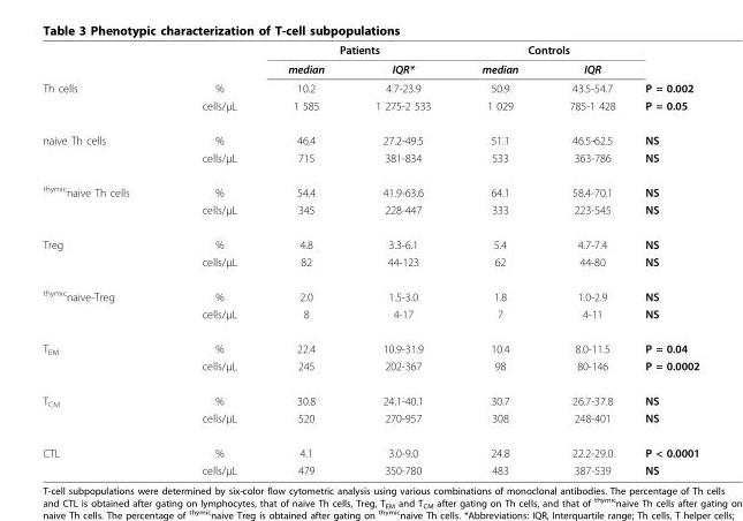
<table><thead><tr><td rowspan="2"></td><td rowspan="2"></td><td colspan="2">Patients</td><td colspan="2">Controls</td><td rowspan="2"></td></tr><tr><td>median</td><td>IQR*</td><td>median</td><td>IQR</td></tr></thead><tbody><tr><td rowspan="2">Th cells</td><td>%</td><td>10.2</td><td>4.7-23.9</td><td>50.9</td><td>43.5-54.7</td><td>P = 0.002</td></tr><tr><td>cells/μL</td><td>1 585</td><td>1 275-2 533</td><td>1 029</td><td>785-1 428</td><td>P = 0.05</td></tr><tr><td rowspan="2">naive Th cells</td><td>%</td><td>46.4</td><td>27.2-49.5</td><td>51.1</td><td>46.5-62.5</td><td>NS</td></tr><tr><td>cells/μL</td><td>715</td><td>381-834</td><td>533</td><td>363-786</td><td>NS</td></tr><tr><td rowspan="2"><sup>thymic</sup>naive Th cells</td><td>%</td><td>54.4</td><td>41.9-63.6</td><td>64.1</td><td>58.4-70.1</td><td>NS</td></tr><tr><td>cells/μL</td><td>345</td><td>228-447</td><td>333</td><td>223-545</td><td>NS</td></tr><tr><td rowspan="2">Treg</td><td>%</td><td>4.8</td><td>3.3-6.1</td><td>5.4</td><td>4.7-7.4</td><td>NS</td></tr><tr><td>cells/μL</td><td>82</td><td>44-123</td><td>62</td><td>44-80</td><td>NS</td></tr><tr><td rowspan="2"><sup>thymic</sup>naive-Treg</td><td>%</td><td>2.0</td><td>1.5-3.0</td><td>1.8</td><td>1.0-2.9</td><td>NS</td></tr><tr><td>cells/μL</td><td>8</td><td>4-17</td><td>7</td><td>4-11</td><td>NS</td></tr><tr><td rowspan="2">T<sub>EM</sub></td><td>%</td><td>22.4</td><td>10.9-31.9</td><td>10.4</td><td>8.0-11.5</td><td>P = 0.04</td></tr><tr><td>cells/μL</td><td>245</td><td>202-367</td><td>98</td><td>80-146</td><td>P = 0.0002</td></tr><tr><td rowspan="2">T<sub>CM</sub></td><td>%</td><td>30.8</td><td>24.1-40.1</td><td>30.7</td><td>26.7-37.8</td><td>NS</td></tr><tr><td>cells/μL</td><td>520</td><td>270-957</td><td>308</td><td>248-401</td><td>NS</td></tr><tr><td rowspan="2">CTL</td><td>%</td><td>4.1</td><td>3.0-9.0</td><td>24.8</td><td>22.2-29.0</td><td>P &lt; 0.0001</td></tr><tr><td>cells/μL</td><td>479</td><td>350-780</td><td>483</td><td>387-539</td><td>NS</td></tr></tbody></table>